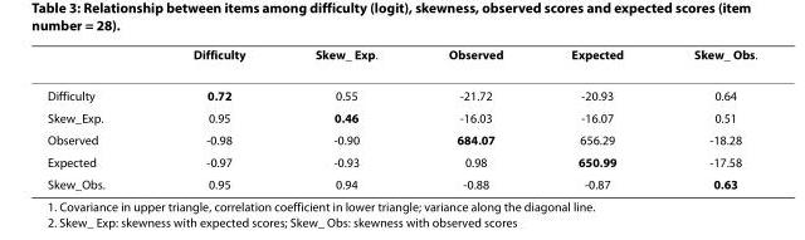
<table><thead><tr><td></td><td>Difficulty</td><td>Skew_ Exp.</td><td>Observed</td><td>Expected</td><td>Skew_ Obs.</td></tr></thead><tbody><tr><td>Difficulty</td><td>0.72</td><td>0.55</td><td>-21.72</td><td>-20.93</td><td>0.64</td></tr><tr><td>Skew_Exp.</td><td>0.95</td><td>0.46</td><td>-16.03</td><td>-16.07</td><td>0.51</td></tr><tr><td>Observed</td><td>-0.98</td><td>-0.90</td><td>684.07</td><td>656.29</td><td>-18.28</td></tr><tr><td>Expected</td><td>-0.97</td><td>-0.93</td><td>0.98</td><td>650.99</td><td>-17.58</td></tr><tr><td>Skew_Obs.</td><td>0.95</td><td>0.94</td><td>-0.88</td><td>-0.87</td><td>0.63</td></tr></tbody></table>